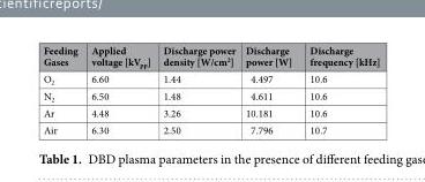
<table><thead><tr><td>Feeding Gases</td><td>Applied voltage [kV<sub>pp</sub>]</td><td>Discharge power density [W/cm<sup>2</sup>]</td><td>Discharge power [W]</td><td>Discharge frequency [kHz]</td></tr></thead><tbody><tr><td>O<sub>2</sub></td><td>6.60</td><td>1.44</td><td>4.497</td><td>10.6</td></tr><tr><td>N<sub>2</sub></td><td>6.50</td><td>1.48</td><td>4.611</td><td>10.6</td></tr><tr><td>Ar</td><td>4.48</td><td>3.26</td><td>10.181</td><td>10.6</td></tr><tr><td>Air</td><td>6.30</td><td>2.50</td><td>7.796</td><td>10.7</td></tr></tbody></table>